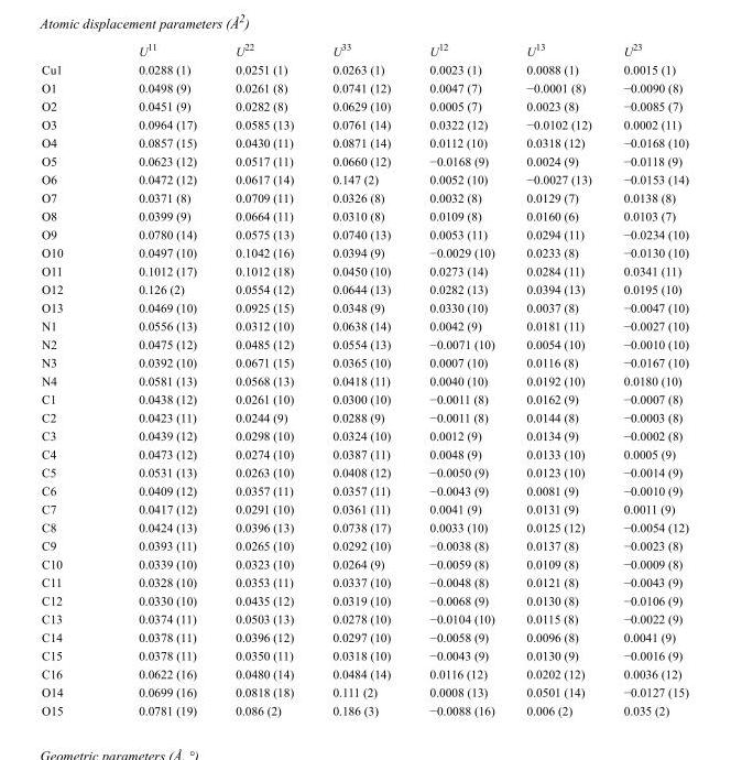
<table><thead><tr><td></td><td>U<sup>11</sup></td><td>U<sup>22</sup></td><td>U<sup>33</sup></td><td>U<sup>12</sup></td><td>U<sup>13</sup></td><td>U<sup>23</sup></td></tr></thead><tbody><tr><td>Cu1</td><td>0.0288 (1)</td><td>0.0251 (1)</td><td>0.0263 (1)</td><td>0.0023 (1)</td><td>0.0088 (1)</td><td>0.0015 (1)</td></tr><tr><td>O1</td><td>0.0498 (9)</td><td>0.0261 (8)</td><td>0.0741 (12)</td><td>0.0047 (7)</td><td>−0.0001 (8)</td><td>−0.0090 (8)</td></tr><tr><td>O2</td><td>0.0451 (9)</td><td>0.0282 (8)</td><td>0.0629 (10)</td><td>0.0005 (7)</td><td>0.0023 (8)</td><td>−0.0085 (7)</td></tr><tr><td>O3</td><td>0.0964 (17)</td><td>0.0585 (13)</td><td>0.0761 (14)</td><td>0.0322 (12)</td><td>−0.0102 (12)</td><td>0.0002 (11)</td></tr><tr><td>O4</td><td>0.0857 (15)</td><td>0.0430 (11)</td><td>0.0871 (14)</td><td>0.0112 (10)</td><td>0.0318 (12)</td><td>−0.0168 (10)</td></tr><tr><td>O5</td><td>0.0623 (12)</td><td>0.0517 (11)</td><td>0.0660 (12)</td><td>−0.0168 (9)</td><td>0.0024 (9)</td><td>−0.0118 (9)</td></tr><tr><td>O6</td><td>0.0472 (12)</td><td>0.0617 (14)</td><td>0.147 (2)</td><td>0.0052 (10)</td><td>−0.0027 (13)</td><td>−0.0153 (14)</td></tr><tr><td>O7</td><td>0.0371 (8)</td><td>0.0709 (11)</td><td>0.0326 (8)</td><td>0.0032 (8)</td><td>0.0129 (7)</td><td>0.0138 (8)</td></tr><tr><td>O8</td><td>0.0399 (9)</td><td>0.0664 (11)</td><td>0.0310 (8)</td><td>0.0109 (8)</td><td>0.0160 (6)</td><td>0.0103 (7)</td></tr><tr><td>O9</td><td>0.0780 (14)</td><td>0.0575 (13)</td><td>0.0740 (13)</td><td>0.0053 (11)</td><td>0.0294 (11)</td><td>−0.0234 (10)</td></tr><tr><td>O10</td><td>0.0497 (10)</td><td>0.1042 (16)</td><td>0.0394 (9)</td><td>−0.0029 (10)</td><td>0.0233 (8)</td><td>−0.0130 (10)</td></tr><tr><td>O11</td><td>0.1012 (17)</td><td>0.1012 (18)</td><td>0.0450 (10)</td><td>0.0273 (14)</td><td>0.0284 (11)</td><td>0.0341 (11)</td></tr><tr><td>O12</td><td>0.126 (2)</td><td>0.0554 (12)</td><td>0.0644 (13)</td><td>0.0282 (13)</td><td>0.0394 (13)</td><td>0.0195 (10)</td></tr><tr><td>O13</td><td>0.0469 (10)</td><td>0.0925 (15)</td><td>0.0348 (9)</td><td>0.0330 (10)</td><td>0.0037 (8)</td><td>−0.0047 (10)</td></tr><tr><td>N1</td><td>0.0556 (13)</td><td>0.0312 (10)</td><td>0.0638 (14)</td><td>0.0042 (9)</td><td>0.0181 (11)</td><td>−0.0027 (10)</td></tr><tr><td>N2</td><td>0.0475 (12)</td><td>0.0485 (12)</td><td>0.0554 (13)</td><td>−0.0071 (10)</td><td>0.0054 (10)</td><td>−0.0010 (10)</td></tr><tr><td>N3</td><td>0.0392 (10)</td><td>0.0671 (15)</td><td>0.0365 (10)</td><td>0.0007 (10)</td><td>0.0116 (8)</td><td>−0.0167 (10)</td></tr><tr><td>N4</td><td>0.0581 (13)</td><td>0.0568 (13)</td><td>0.0418 (11)</td><td>0.0040 (10)</td><td>0.0192 (10)</td><td>0.0180 (10)</td></tr><tr><td>C1</td><td>0.0438 (12)</td><td>0.0261 (10)</td><td>0.0300 (10)</td><td>−0.0011 (8)</td><td>0.0162 (9)</td><td>−0.0007 (8)</td></tr><tr><td>C2</td><td>0.0423 (11)</td><td>0.0244 (9)</td><td>0.0288 (9)</td><td>−0.0011 (8)</td><td>0.0144 (8)</td><td>−0.0003 (8)</td></tr><tr><td>C3</td><td>0.0439 (12)</td><td>0.0298 (10)</td><td>0.0324 (10)</td><td>0.0012 (9)</td><td>0.0134 (9)</td><td>−0.0002 (8)</td></tr><tr><td>C4</td><td>0.0473 (12)</td><td>0.0274 (10)</td><td>0.0387 (11)</td><td>0.0048 (9)</td><td>0.0133 (10)</td><td>0.0005 (9)</td></tr><tr><td>C5</td><td>0.0531 (13)</td><td>0.0263 (10)</td><td>0.0408 (12)</td><td>−0.0050 (9)</td><td>0.0123 (10)</td><td>−0.0014 (9)</td></tr><tr><td>C6</td><td>0.0409 (12)</td><td>0.0357 (11)</td><td>0.0357 (11)</td><td>−0.0043 (9)</td><td>0.0081 (9)</td><td>−0.0010 (9)</td></tr><tr><td>C7</td><td>0.0417 (12)</td><td>0.0291 (10)</td><td>0.0361 (11)</td><td>0.0041 (9)</td><td>0.0131 (9)</td><td>0.0011 (9)</td></tr><tr><td>C8</td><td>0.0424 (13)</td><td>0.0396 (13)</td><td>0.0738 (17)</td><td>0.0033 (10)</td><td>0.0125 (12)</td><td>−0.0054 (12)</td></tr><tr><td>C9</td><td>0.0393 (11)</td><td>0.0265 (10)</td><td>0.0292 (10)</td><td>−0.0038 (8)</td><td>0.0137 (8)</td><td>−0.0023 (8)</td></tr><tr><td>C10</td><td>0.0339 (10)</td><td>0.0323 (10)</td><td>0.0264 (9)</td><td>−0.0059 (8)</td><td>0.0109 (8)</td><td>−0.0009 (8)</td></tr><tr><td>C11</td><td>0.0328 (10)</td><td>0.0353 (11)</td><td>0.0337 (10)</td><td>−0.0048 (8)</td><td>0.0121 (8)</td><td>−0.0043 (9)</td></tr><tr><td>C12</td><td>0.0330 (10)</td><td>0.0435 (12)</td><td>0.0319 (10)</td><td>−0.0068 (9)</td><td>0.0130 (8)</td><td>−0.0106 (9)</td></tr><tr><td>C13</td><td>0.0374 (11)</td><td>0.0503 (13)</td><td>0.0278 (10)</td><td>−0.0104 (10)</td><td>0.0115 (8)</td><td>−0.0022 (9)</td></tr><tr><td>C14</td><td>0.0378 (11)</td><td>0.0396 (12)</td><td>0.0297 (10)</td><td>−0.0058 (9)</td><td>0.0096 (8)</td><td>0.0041 (9)</td></tr><tr><td>C15</td><td>0.0378 (11)</td><td>0.0350 (11)</td><td>0.0318 (10)</td><td>−0.0043 (9)</td><td>0.0130 (9)</td><td>−0.0016 (9)</td></tr><tr><td>C16</td><td>0.0622 (16)</td><td>0.0480 (14)</td><td>0.0484 (14)</td><td>0.0116 (12)</td><td>0.0202 (12)</td><td>0.0036 (12)</td></tr><tr><td>O14</td><td>0.0699 (16)</td><td>0.0818 (18)</td><td>0.111 (2)</td><td>0.0008 (13)</td><td>0.0501 (14)</td><td>−0.0127 (15)</td></tr><tr><td>O15</td><td>0.0781 (19)</td><td>0.086 (2)</td><td>0.186 (3)</td><td>−0.0088 (16)</td><td>0.006 (2)</td><td>0.035 (2)</td></tr></tbody></table>